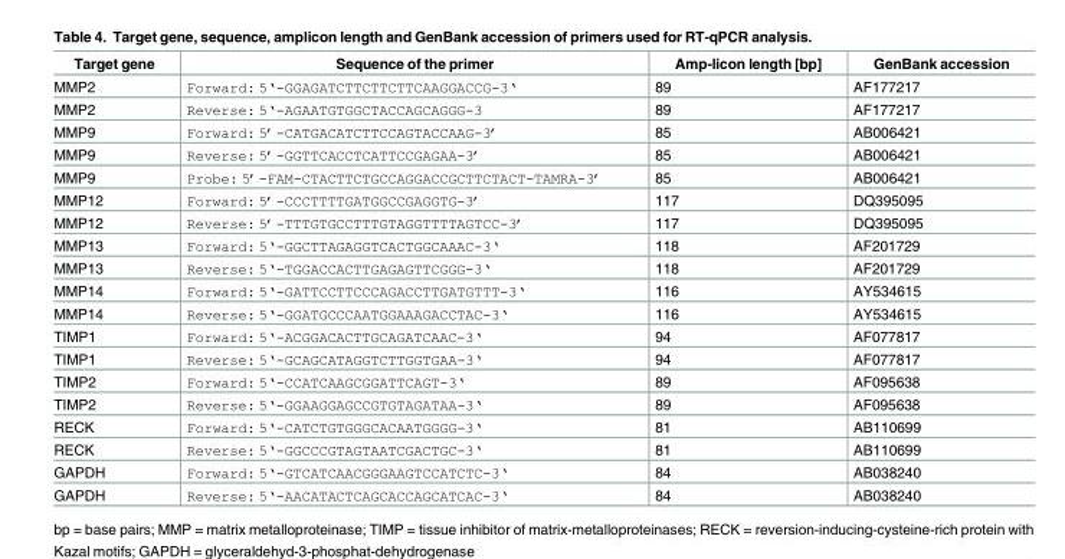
<table><thead><tr><td>Target gene</td><td>Sequence of the primer</td><td>Amp-licon length [bp]</td><td>GenBank accession</td></tr></thead><tbody><tr><td>MMP2</td><td>Forward: 5‘-GGAGATCTTCTTCTTCAAGGACCG-3‘</td><td>89</td><td>AF177217</td></tr><tr><td>MMP2</td><td>Reverse: 5‘-AGAATGTGGCTACCAGCAGGG-3</td><td>89</td><td>AF177217</td></tr><tr><td>MMP9</td><td>Forward: 5’-CATGACATCTTCCAGTACCAAG-3’</td><td>85</td><td>AB006421</td></tr><tr><td>MMP9</td><td>Reverse: 5’-GGTTCACCTCATTCCGAGAA-3’</td><td>85</td><td>AB006421</td></tr><tr><td>MMP9</td><td>Probe: 5’-FAM-CTACTTCTGCCAGGACCGCTTCTACT-TAMRA-3’</td><td>85</td><td>AB006421</td></tr><tr><td>MMP12</td><td>Forward: 5’-CCCTTTTGATGGCCGAGGTG-3’</td><td>117</td><td>DQ395095</td></tr><tr><td>MMP12</td><td>Reverse: 5’-TTTGTGCCTTTGTAGGTTTTAGTCC-3’</td><td>117</td><td>DQ395095</td></tr><tr><td>MMP13</td><td>Forward: 5‘-GGCTTAGAGGTCACTGGCAAAC-3‘</td><td>118</td><td>AF201729</td></tr><tr><td>MMP13</td><td>Reverse: 5‘-TGGACCACTTGAGAGTTCGGG-3‘</td><td>118</td><td>AF201729</td></tr><tr><td>MMP14</td><td>Forward: 5‘-GATTCCTTCCCAGACCTTGATGTTT-3‘</td><td>116</td><td>AY534615</td></tr><tr><td>MMP14</td><td>Reverse: 5‘-GGATGCCCAATGGAAAGACCTAC-3‘</td><td>116</td><td>AY534615</td></tr><tr><td>TIMP1</td><td>Forward: 5‘-ACGGACACTTGCAGATCAAC-3‘</td><td>94</td><td>AF077817</td></tr><tr><td>TIMP1</td><td>Reverse: 5‘-GCAGCATAGGTCTTGGTGAA-3‘</td><td>94</td><td>AF077817</td></tr><tr><td>TIMP2</td><td>Forward: 5‘-CCATCAAGCGGATTCAGT-3‘</td><td>89</td><td>AF095638</td></tr><tr><td>TIMP2</td><td>Reverse: 5‘-GGAAGGAGCCGTGTAGATAA-3‘</td><td>89</td><td>AF095638</td></tr><tr><td>RECK</td><td>Forward: 5‘-CATCTGTGGGCACAATGGGG-3‘</td><td>81</td><td>AB110699</td></tr><tr><td>RECK</td><td>Reverse: 5‘-GGCCCGTAGTAATCGACTGC-3‘</td><td>81</td><td>AB110699</td></tr><tr><td>GAPDH</td><td>Forward: 5‘-GTCATCAACGGGAAGTCCATCTC-3‘</td><td>84</td><td>AB038240</td></tr><tr><td>GAPDH</td><td>Reverse: 5‘-AACATACTCAGCACCAGCATCAC-3‘</td><td>84</td><td>AB038240</td></tr></tbody></table>